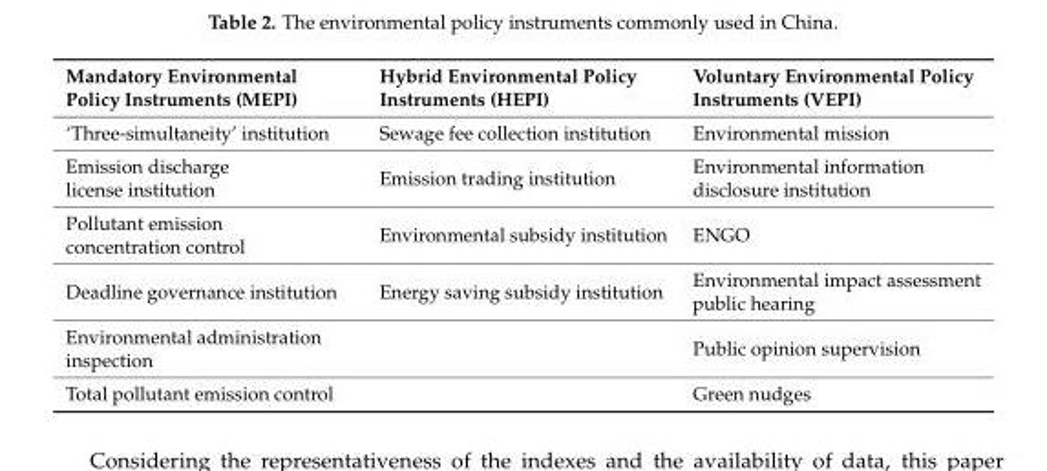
<table><thead><tr><td>Mandatory Environmental Policy Instruments (MEPI)</td><td>Hybrid Environmental Policy Instruments (HEPI)</td><td>Voluntary Environmental Policy Instruments (VEPI)</td></tr></thead><tbody><tr><td>‘Three-simultaneity’ institution</td><td>Sewage fee collection institution</td><td>Environmental mission</td></tr><tr><td>Emission discharge license institution</td><td>Emission trading institution</td><td>Environmental information disclosure institution</td></tr><tr><td>Pollutant emission concentration control</td><td>Environmental subsidy institution</td><td>ENGO</td></tr><tr><td>Deadline governance institution</td><td>Energy saving subsidy institution</td><td>Environmental impact assessment public hearing</td></tr><tr><td>Environmental administration inspection</td><td></td><td>Public opinion supervision</td></tr><tr><td>Total pollutant emission control</td><td></td><td>Green nudges</td></tr></tbody></table>